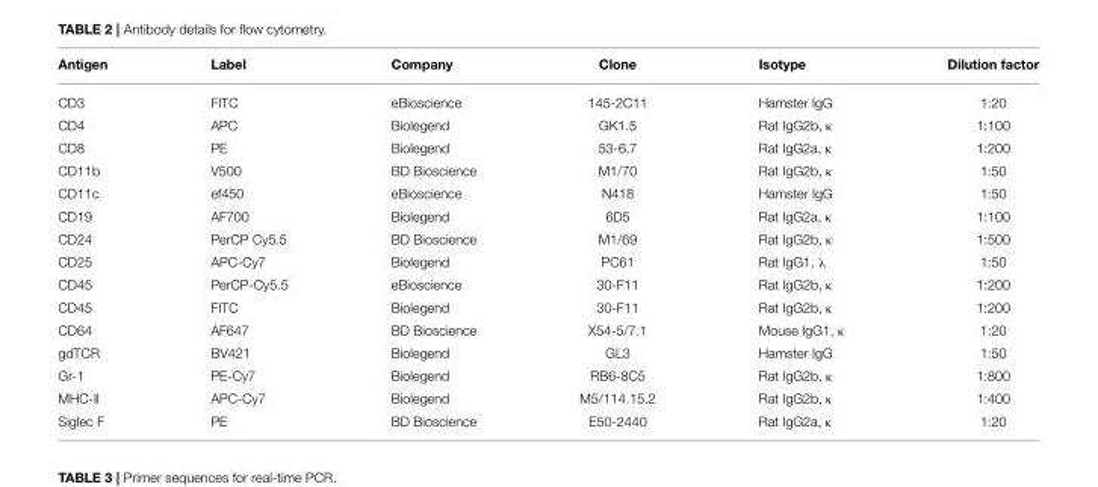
<table><thead><tr><td>Antigen</td><td>Label</td><td>Company</td><td>Clone</td><td>Isotype</td><td>Dilution factor</td></tr></thead><tbody><tr><td>CD3</td><td>FITC</td><td>eBioscience</td><td>145-2C11</td><td>Hamster IgG</td><td>1:20</td></tr><tr><td>CD4</td><td>APC</td><td>Biolegend</td><td>GK1.5</td><td>Rat IgG2b, κ</td><td>1:100</td></tr><tr><td>CD8</td><td>PE</td><td>Biolegend</td><td>53-6.7</td><td>Rat IgG2a, κ</td><td>1:200</td></tr><tr><td>CD11b</td><td>V500</td><td>BD Bioscience</td><td>M1/70</td><td>Rat IgG2b, κ</td><td>1:50</td></tr><tr><td>CD11c</td><td>ef450</td><td>eBioscience</td><td>N418</td><td>Hamster IgG</td><td>1:50</td></tr><tr><td>CD19</td><td>AF700</td><td>Biolegend</td><td>6D5</td><td>Rat IgG2a, κ</td><td>1:100</td></tr><tr><td>CD24</td><td>PerCP Cy5.5</td><td>BD Bioscience</td><td>M1/69</td><td>Rat IgG2b, κ</td><td>1:500</td></tr><tr><td>CD25</td><td>APC-Cy7</td><td>Biolegend</td><td>PC61</td><td>Rat IgG1, λ</td><td>1:50</td></tr><tr><td>CD45</td><td>PerCP-Cy5.5</td><td>eBioscience</td><td>30-F11</td><td>Rat IgG2b, κ</td><td>1:200</td></tr><tr><td>CD45</td><td>FITC</td><td>Biolegend</td><td>30-F11</td><td>Rat IgG2b, κ</td><td>1:200</td></tr><tr><td>CD64</td><td>AF647</td><td>BD Bioscience</td><td>X54-5/7.1</td><td>Mouse IgG1, κ</td><td>1:20</td></tr><tr><td>gdTCR</td><td>BV421</td><td>Biolegend</td><td>GL3</td><td>Hamster IgG</td><td>1:50</td></tr><tr><td>Gr-1</td><td>PE-Cy7</td><td>Biolegend</td><td>RB6-8C5</td><td>Rat IgG2b, κ</td><td>1:800</td></tr><tr><td>MHC-II</td><td>APC-Cy7</td><td>Biolegend</td><td>M5/114.15.2</td><td>Rat IgG2b, κ</td><td>1:400</td></tr><tr><td>Siglec F</td><td>PE</td><td>BD Bioscience</td><td>E50-2440</td><td>Rat IgG2a, κ</td><td>1:20</td></tr></tbody></table>